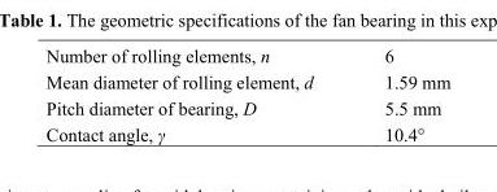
<table><tbody><tr><td>Number of rolling elements, n</td><td>6</td></tr><tr><td>Mean diameter of rolling element, d</td><td>1.59 mm</td></tr><tr><td>Pitch diameter of bearing, D</td><td>5.5 mm</td></tr><tr><td>Contact angle, γ</td><td>10.4°</td></tr></tbody></table>